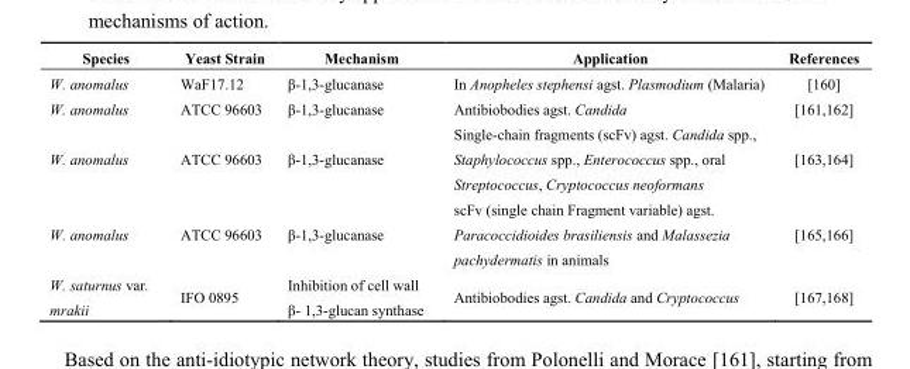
<table><thead><tr><td>Species</td><td>Yeast Strain</td><td>Mechanism</td><td>Application</td><td>References</td></tr></thead><tbody><tr><td>W. anomalus</td><td>WaF17.12</td><td>β-1,3-glucanase</td><td>In Anopheles stephensi agst. Plasmodium (Malaria)</td><td>[160]</td></tr><tr><td>W. anomalus</td><td>ATCC 96603</td><td>β-1,3-glucanase</td><td>Antibiobodies agst. Candida</td><td>[161,162]</td></tr><tr><td>W. anomalus</td><td>ATCC 96603</td><td>β-1,3-glucanase</td><td>Single-chain fragments (scFv) agst. Candida spp., Staphylococcus spp., Enterococcus spp., oral Streptococcus, Cryptococcus neoformans</td><td>[163,164]</td></tr><tr><td>W. anomalus</td><td>ATCC 96603</td><td>β-1,3-glucanase</td><td>scFv (single chain Fragment variable) agst. Paracoccidioides brasiliensis and Malassezia pachydermatis in animals</td><td>[165,166]</td></tr><tr><td>W. saturnus var. mrakii</td><td>IFO 0895</td><td>Inhibition of cell wall β- 1,3-glucan synthase</td><td>Antibiobodies agst. Candida and Cryptococcus</td><td>[167,168]</td></tr></tbody></table>